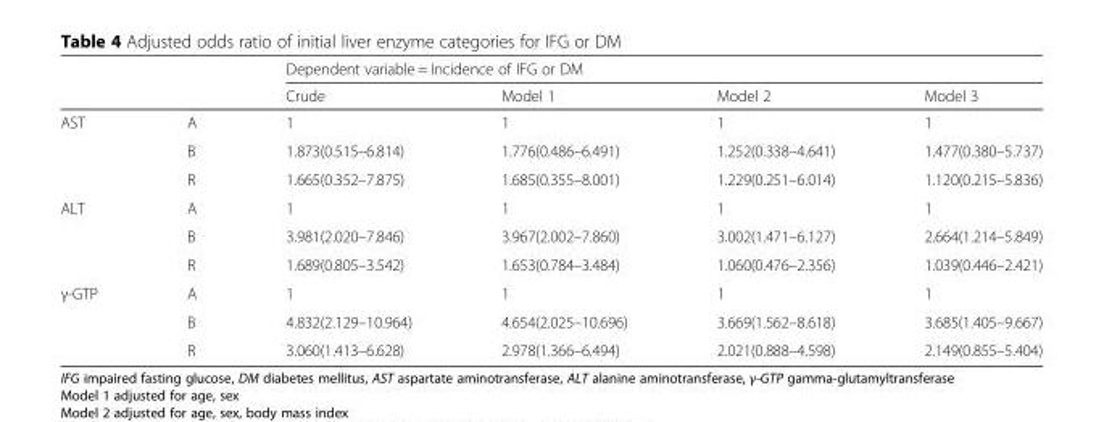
<table><thead><tr><td rowspan="2"></td><td rowspan="2"></td><td colspan="4">Dependent variable = Incidence of IFG or DM</td></tr><tr><td>Crude</td><td>Model 1</td><td>Model 2</td><td>Model 3</td></tr></thead><tbody><tr><td rowspan="3">AST</td><td>A</td><td>1</td><td>1</td><td>1</td><td>1</td></tr><tr><td>B</td><td>1.873(0.515–6.814)</td><td>1.776(0.486–6.491)</td><td>1.252(0.338–4.641)</td><td>1.477(0.380–5.737)</td></tr><tr><td>R</td><td>1.665(0.352–7.875)</td><td>1.685(0.355–8.001)</td><td>1.229(0.251–6.014)</td><td>1.120(0.215–5.836)</td></tr><tr><td rowspan="3">ALT</td><td>A</td><td>1</td><td>1</td><td>1</td><td>1</td></tr><tr><td>B</td><td>3.981(2.020–7.846)</td><td>3.967(2.002–7.860)</td><td>3.002(1.471–6.127)</td><td>2.664(1.214–5.849)</td></tr><tr><td>R</td><td>1.689(0.805–3.542)</td><td>1.653(0.784–3.484)</td><td>1.060(0.476–2.356)</td><td>1.039(0.446–2.421)</td></tr><tr><td rowspan="3">γ-GTP</td><td>A</td><td>1</td><td>1</td><td>1</td><td>1</td></tr><tr><td>B</td><td>4.832(2.129–10.964)</td><td>4.654(2.025–10.696)</td><td>3.669(1.562–8.618)</td><td>3.685(1.405–9.667)</td></tr><tr><td>R</td><td>3.060(1.413–6.628)</td><td>2.978(1.366–6.494)</td><td>2.021(0.888–4.598)</td><td>2.149(0.855–5.404)</td></tr></tbody></table>